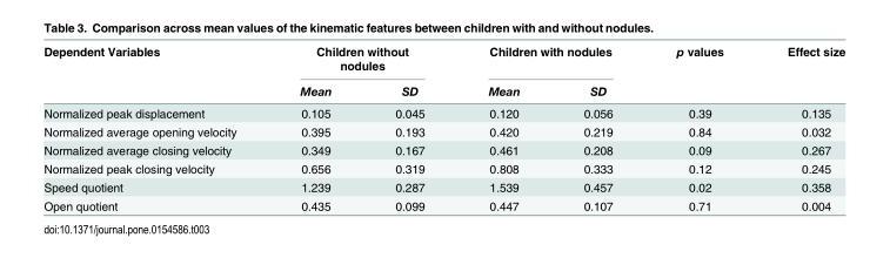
<table><thead><tr><td rowspan="2">Dependent Variables</td><td colspan="2">Children without nodules</td><td colspan="2">Children with nodules</td><td rowspan="2">p values</td><td rowspan="2">Effect size</td></tr><tr><td>Mean</td><td>SD</td><td>Mean</td><td>SD</td></tr></thead><tbody><tr><td>Normalized peak displacement</td><td>0.105</td><td>0.045</td><td>0.120</td><td>0.056</td><td>0.39</td><td>0.135</td></tr><tr><td>Normalized average opening velocity</td><td>0.395</td><td>0.193</td><td>0.420</td><td>0.219</td><td>0.84</td><td>0.032</td></tr><tr><td>Normalized average closing velocity</td><td>0.349</td><td>0.167</td><td>0.461</td><td>0.208</td><td>0.09</td><td>0.267</td></tr><tr><td>Normalized peak closing velocity</td><td>0.656</td><td>0.319</td><td>0.808</td><td>0.333</td><td>0.12</td><td>0.245</td></tr><tr><td>Speed quotient</td><td>1.239</td><td>0.287</td><td>1.539</td><td>0.457</td><td>0.02</td><td>0.358</td></tr><tr><td>Open quotient</td><td>0.435</td><td>0.099</td><td>0.447</td><td>0.107</td><td>0.71</td><td>0.004</td></tr></tbody></table>